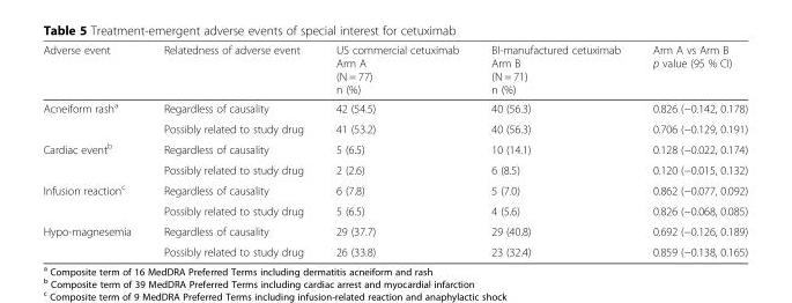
<table><thead><tr><td>Adverse event</td><td>Relatedness of adverse event</td><td>US commercial cetuximab Arm A (N = 77) n (%)</td><td>BI-manufactured cetuximab Arm B (N = 71) n (%)</td><td>Arm A vs Arm B p value (95 % CI)</td></tr></thead><tbody><tr><td rowspan="2">Acneiform rash<sup>a</sup></td><td>Regardless of causality</td><td>42 (54.5)</td><td>40 (56.3)</td><td>0.826 (−0.142, 0.178)</td></tr><tr><td>Possibly related to study drug</td><td>41 (53.2)</td><td>40 (56.3)</td><td>0.706 (−0.129, 0.191)</td></tr><tr><td rowspan="2">Cardiac event<sup>b</sup></td><td>Regardless of causality</td><td>5 (6.5)</td><td>10 (14.1)</td><td>0.128 (−0.022, 0.174)</td></tr><tr><td>Possibly related to study drug</td><td>2 (2.6)</td><td>6 (8.5)</td><td>0.120 (−0.015, 0.132)</td></tr><tr><td rowspan="2">Infusion reaction<sup>c</sup></td><td>Regardless of causality</td><td>6 (7.8)</td><td>5 (7.0)</td><td>0.862 (−0.077, 0.092)</td></tr><tr><td>Possibly related to study drug</td><td>5 (6.5)</td><td>4 (5.6)</td><td>0.826 (−0.068, 0.085)</td></tr><tr><td rowspan="2">Hypo-magnesemia</td><td>Regardless of causality</td><td>29 (37.7)</td><td>29 (40.8)</td><td>0.692 (−0.126, 0.189)</td></tr><tr><td>Possibly related to study drug</td><td>26 (33.8)</td><td>23 (32.4)</td><td>0.859 (−0.138, 0.165)</td></tr></tbody></table>